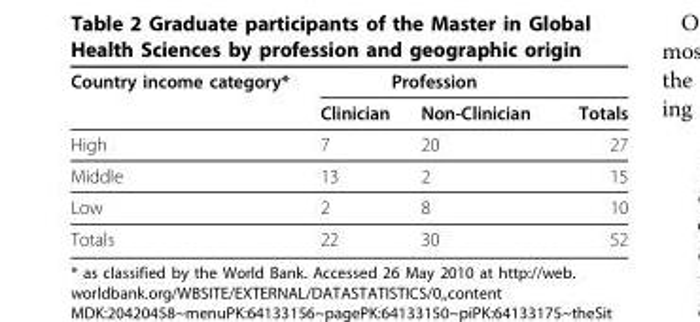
<table><thead><tr><td rowspan="2">Country income category*</td><td colspan="2">Profession</td><td rowspan="2">Totals</td></tr><tr><td>Clinician</td><td>Non-Clinician</td></tr></thead><tbody><tr><td>High</td><td>7</td><td>20</td><td>27</td></tr><tr><td>Middle</td><td>13</td><td>2</td><td>15</td></tr><tr><td>Low</td><td>2</td><td>8</td><td>10</td></tr><tr><td>Totals</td><td>22</td><td>30</td><td>52</td></tr></tbody></table>